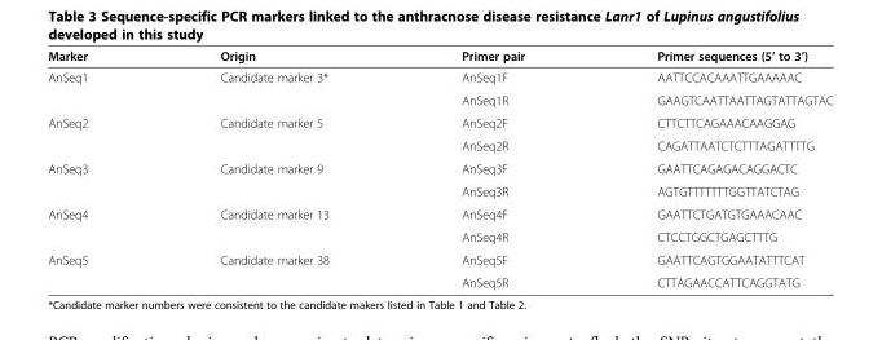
<table><thead><tr><td>Marker</td><td>Origin</td><td>Primer pair</td><td>Primer sequences (5’ to 3’)</td></tr></thead><tbody><tr><td rowspan="2">AnSeq1</td><td>Candidate marker 3*</td><td>AnSeq1F</td><td>AATTCCACAAATTGAAAAAC</td></tr><tr><td></td><td>AnSeq1R</td><td>GAAGTCAATTAATTAGTATTAGTAC</td></tr><tr><td rowspan="2">AnSeq2</td><td>Candidate marker 5</td><td>AnSeq2F</td><td>CTTCTTCAGAAACAAGGAG</td></tr><tr><td></td><td>AnSeq2R</td><td>CAGATTAATCTCTTTAGATTTTG</td></tr><tr><td rowspan="2">AnSeq3</td><td>Candidate marker 9</td><td>AnSeq3F</td><td>GAATTCAGAGACAGGACTC</td></tr><tr><td></td><td>AnSeq3R</td><td>AGTGTTTTTTTGGTTATCTAG</td></tr><tr><td rowspan="2">AnSeq4</td><td>Candidate marker 13</td><td>AnSeq4F</td><td>GAATTCTGATGTGAAACAAC</td></tr><tr><td></td><td>AnSeq4R</td><td>CTCCTGGCTGAGCTTTG</td></tr><tr><td rowspan="2">AnSeq5</td><td>Candidate marker 38</td><td>AnSeq5F</td><td>GAATTCAGTGGAATATTTCAT</td></tr><tr><td></td><td>AnSeq5R</td><td>CTTAGAACCATTCAGGTATG</td></tr></tbody></table>